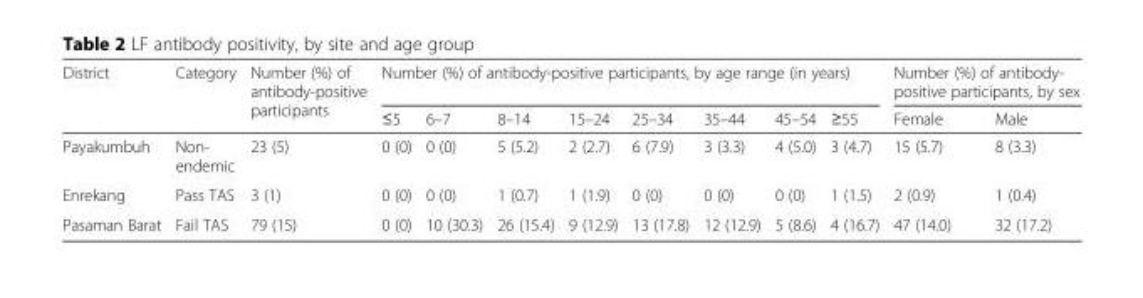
<table><thead><tr><td rowspan="2">District</td><td rowspan="2">Category</td><td rowspan="2">Number (%) of antibody-positive participants</td><td colspan="8">Number (%) of antibody-positive participants, by age range (in years)</td><td colspan="2">Number (%) of antibody- positive participants, by sex</td></tr><tr><td>≤5</td><td>6–7</td><td>8–14</td><td>15–24</td><td>25–34</td><td>35–44</td><td>45–54</td><td>≥55</td><td>Female</td><td>Male</td></tr></thead><tbody><tr><td>Payakumbuh</td><td>Non- endemic</td><td>23 (5)</td><td>0 (0)</td><td>0 (0)</td><td>5 (5.2)</td><td>2 (2.7)</td><td>6 (7.9)</td><td>3 (3.3)</td><td>4 (5.0)</td><td>3 (4.7)</td><td>15 (5.7)</td><td>8 (3.3)</td></tr><tr><td>Enrekang</td><td>Pass TAS</td><td>3 (1)</td><td>0 (0)</td><td>0 (0)</td><td>1 (0.7)</td><td>1 (1.9)</td><td>0 (0)</td><td>0 (0)</td><td>0 (0)</td><td>1 (1.5)</td><td>2 (0.9)</td><td>1 (0.4)</td></tr><tr><td>Pasaman Barat</td><td>Fail TAS</td><td>79 (15)</td><td>0 (0)</td><td>10 (30.3)</td><td>26 (15.4)</td><td>9 (12.9)</td><td>13 (17.8)</td><td>12 (12.9)</td><td>5 (8.6)</td><td>4 (16.7)</td><td>47 (14.0)</td><td>32 (17.2)</td></tr></tbody></table>